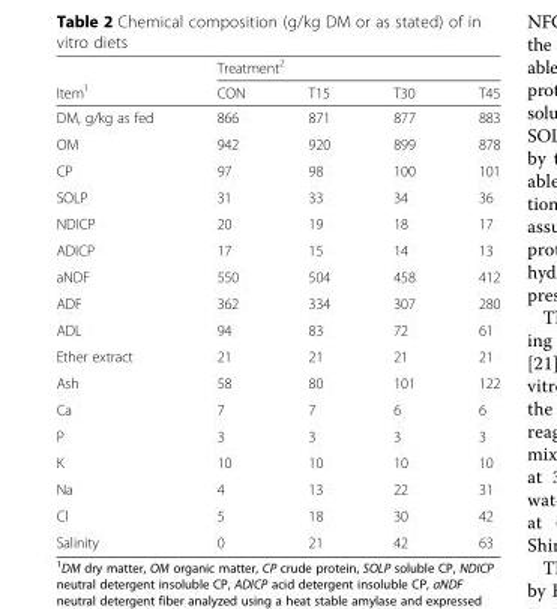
<table><thead><tr><td rowspan="2">Item<sup>1</sup></td><td colspan="4">Treatment<sup>2</sup></td></tr><tr><td>CON</td><td>T15</td><td>T30</td><td>T45</td></tr></thead><tbody><tr><td>DM, g/kg as fed</td><td>866</td><td>871</td><td>877</td><td>883</td></tr><tr><td>OM</td><td>942</td><td>920</td><td>899</td><td>878</td></tr><tr><td>CP</td><td>97</td><td>98</td><td>100</td><td>101</td></tr><tr><td>SOLP</td><td>31</td><td>33</td><td>34</td><td>36</td></tr><tr><td>NDICP</td><td>20</td><td>19</td><td>18</td><td>17</td></tr><tr><td>ADICP</td><td>17</td><td>15</td><td>14</td><td>13</td></tr><tr><td>aNDF</td><td>550</td><td>504</td><td>458</td><td>412</td></tr><tr><td>ADF</td><td>362</td><td>334</td><td>307</td><td>280</td></tr><tr><td>ADL</td><td>94</td><td>83</td><td>72</td><td>61</td></tr><tr><td>Ether extract</td><td>21</td><td>21</td><td>21</td><td>21</td></tr><tr><td>Ash</td><td>58</td><td>80</td><td>101</td><td>122</td></tr><tr><td>Ca</td><td>7</td><td>7</td><td>6</td><td>6</td></tr><tr><td>P</td><td>3</td><td>3</td><td>3</td><td>3</td></tr><tr><td>K</td><td>10</td><td>10</td><td>10</td><td>10</td></tr><tr><td>Na</td><td>4</td><td>13</td><td>22</td><td>31</td></tr><tr><td>Cl</td><td>5</td><td>18</td><td>30</td><td>42</td></tr><tr><td>Salinity</td><td>0</td><td>21</td><td>42</td><td>63</td></tr></tbody></table>